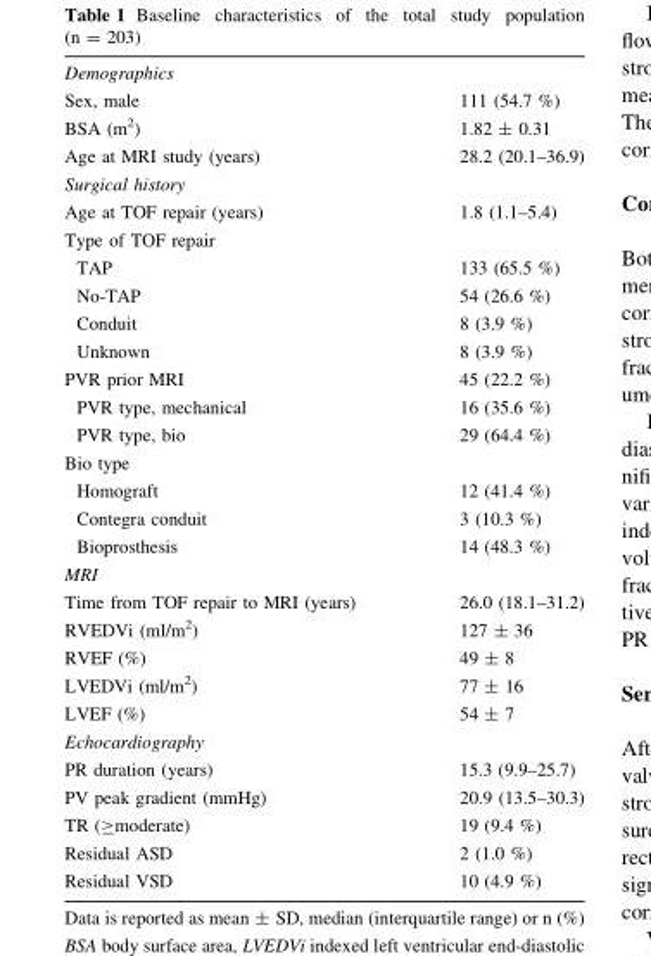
<table><tbody><tr><td colspan="2">Demographics</td></tr><tr><td>Sex, male</td><td>111 (54.7 %)</td></tr><tr><td>BSA (m<sup>2</sup>)</td><td>1.82 ± 0.31</td></tr><tr><td>Age at MRI study (years)</td><td>28.2 (20.1–36.9)</td></tr><tr><td colspan="2">Surgical history</td></tr><tr><td>Age at TOF repair (years)</td><td>1.8 (1.1–5.4)</td></tr><tr><td colspan="2">Type of TOF repair</td></tr><tr><td>TAP</td><td>133 (65.5 %)</td></tr><tr><td>No-TAP</td><td>54 (26.6 %)</td></tr><tr><td>Conduit</td><td>8 (3.9 %)</td></tr><tr><td>Unknown</td><td>8 (3.9 %)</td></tr><tr><td>PVR prior MRI</td><td>45 (22.2 %)</td></tr><tr><td>PVR type, mechanical</td><td>16 (35.6 %)</td></tr><tr><td>PVR type, bio</td><td>29 (64.4 %)</td></tr><tr><td colspan="2">Bio type</td></tr><tr><td>Homograft</td><td>12 (41.4 %)</td></tr><tr><td>Contegra conduit</td><td>3 (10.3 %)</td></tr><tr><td>Bioprosthesis</td><td>14 (48.3 %)</td></tr><tr><td colspan="2">MRI</td></tr><tr><td>Time from TOF repair to MRI (years)</td><td>26.0 (18.1–31.2)</td></tr><tr><td>RVEDVi (ml/m<sup>2</sup>)</td><td>127 ± 36</td></tr><tr><td>RVEF (%)</td><td>49 ± 8</td></tr><tr><td>LVEDVi (ml/m<sup>2</sup>)</td><td>77 ± 16</td></tr><tr><td>LVEF (%)</td><td>54 ± 7</td></tr><tr><td colspan="2">Echocardiography</td></tr><tr><td>PR duration (years)</td><td>15.3 (9.9–25.7)</td></tr><tr><td>PV peak gradient (mmHg)</td><td>20.9 (13.5–30.3)</td></tr><tr><td>TR (≥moderate)</td><td>19 (9.4 %)</td></tr><tr><td>Residual ASD</td><td>2 (1.0 %)</td></tr><tr><td>Residual VSD</td><td>10 (4.9 %)</td></tr></tbody></table>